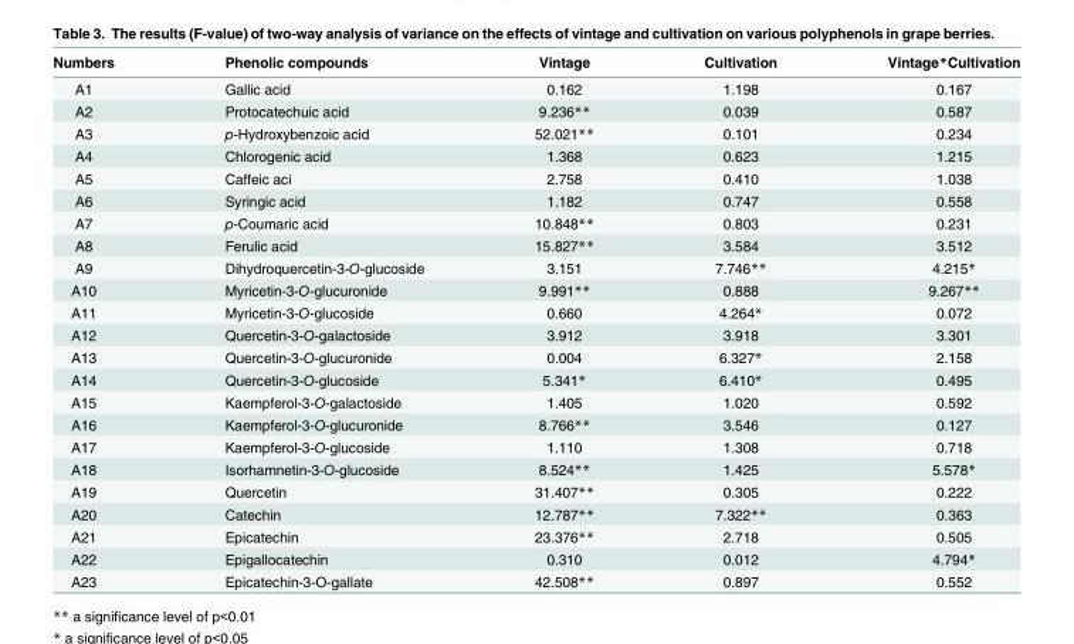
<table><thead><tr><td>Numbers</td><td>Phenolic compounds</td><td>Vintage</td><td>Cultivation</td><td>Vintage*Cultivation</td></tr></thead><tbody><tr><td>A1</td><td>Gallic acid</td><td>0.162</td><td>1.198</td><td>0.167</td></tr><tr><td>A2</td><td>Protocatechuic acid</td><td>9.236**</td><td>0.039</td><td>0.587</td></tr><tr><td>A3</td><td>p-Hydroxybenzoic acid</td><td>52.021**</td><td>0.101</td><td>0.234</td></tr><tr><td>A4</td><td>Chlorogenic acid</td><td>1.368</td><td>0.623</td><td>1.215</td></tr><tr><td>A5</td><td>Caffeic aci</td><td>2.758</td><td>0.410</td><td>1.038</td></tr><tr><td>A6</td><td>Syringic acid</td><td>1.182</td><td>0.747</td><td>0.558</td></tr><tr><td>A7</td><td>p-Coumaric acid</td><td>10.848**</td><td>0.803</td><td>0.231</td></tr><tr><td>A8</td><td>Ferulic acid</td><td>15.827**</td><td>3.584</td><td>3.512</td></tr><tr><td>A9</td><td>Dihydroquercetin-3-O-glucoside</td><td>3.151</td><td>7.746**</td><td>4.215*</td></tr><tr><td>A10</td><td>Myricetin-3-O-glucuronide</td><td>9.991**</td><td>0.888</td><td>9.267**</td></tr><tr><td>A11</td><td>Myricetin-3-O-glucoside</td><td>0.660</td><td>4.264*</td><td>0.072</td></tr><tr><td>A12</td><td>Quercetin-3-O-galactoside</td><td>3.912</td><td>3.918</td><td>3.301</td></tr><tr><td>A13</td><td>Quercetin-3-O-glucuronide</td><td>0.004</td><td>6.327*</td><td>2.158</td></tr><tr><td>A14</td><td>Quercetin-3-O-glucoside</td><td>5.341*</td><td>6.410*</td><td>0.495</td></tr><tr><td>A15</td><td>Kaempferol-3-O-galactoside</td><td>1.405</td><td>1.020</td><td>0.592</td></tr><tr><td>A16</td><td>Kaempferol-3-O-glucuronide</td><td>8.766**</td><td>3.546</td><td>0.127</td></tr><tr><td>A17</td><td>Kaempferol-3-O-glucoside</td><td>1.110</td><td>1.308</td><td>0.718</td></tr><tr><td>A18</td><td>Isorhamnetin-3-O-glucoside</td><td>8.524**</td><td>1.425</td><td>5.578*</td></tr><tr><td>A19</td><td>Quercetin</td><td>31.407**</td><td>0.305</td><td>0.222</td></tr><tr><td>A20</td><td>Catechin</td><td>12.787**</td><td>7.322**</td><td>0.363</td></tr><tr><td>A21</td><td>Epicatechin</td><td>23.376**</td><td>2.718</td><td>0.505</td></tr><tr><td>A22</td><td>Epigallocatechin</td><td>0.310</td><td>0.012</td><td>4.794*</td></tr><tr><td>A23</td><td>Epicatechin-3-O-gallate</td><td>42.508**</td><td>0.897</td><td>0.552</td></tr></tbody></table>